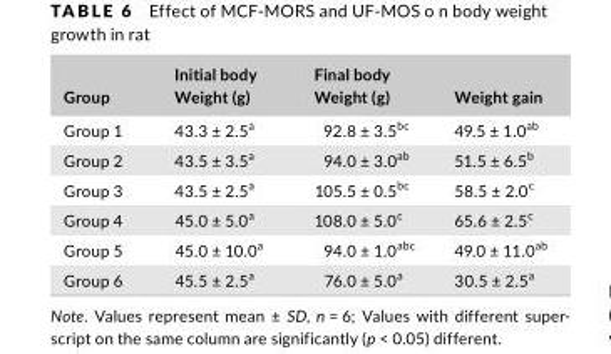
<table><thead><tr><td>Group</td><td>Initial body Weight (g)</td><td>Final body Weight (g)</td><td>Weight gain</td></tr></thead><tbody><tr><td>Group 1</td><td>43.3 ± 2.5<sup>a</sup></td><td>92.8 ± 3.5<sup>bc</sup></td><td>49.5 ± 1.0<sup>ab</sup></td></tr><tr><td>Group 2</td><td>43.5 ± 3.5<sup>a</sup></td><td>94.0 ± 3.0<sup>ab</sup></td><td>51.5 ± 6.5<sup>b</sup></td></tr><tr><td>Group 3</td><td>43.5 ± 2.5<sup>a</sup></td><td>105.5 ± 0.5<sup>bc</sup></td><td>58.5 ± 2.0<sup>c</sup></td></tr><tr><td>Group 4</td><td>45.0 ± 5.0<sup>a</sup></td><td>108.0 ± 5.0<sup>c</sup></td><td>65.6 ± 2.5<sup>c</sup></td></tr><tr><td>Group 5</td><td>45.0 ± 10.0<sup>a</sup></td><td>94.0 ± 1.0<sup>abc</sup></td><td>49.0 ± 11.0<sup>ab</sup></td></tr><tr><td>Group 6</td><td>45.5 ± 2.5<sup>a</sup></td><td>76.0 ± 5.0<sup>a</sup></td><td>30.5 ± 2.5<sup>a</sup></td></tr></tbody></table>